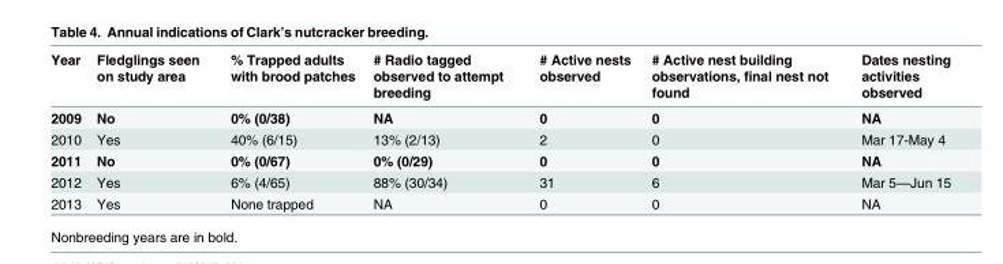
<table><thead><tr><td>Year</td><td>Fledglings seen on study area</td><td>% Trapped adults with brood patches</td><td># Radio tagged observed to attempt breeding</td><td># Active nests observed</td><td># Active nest building observations, final nest not found</td><td>Dates nesting activities observed</td></tr></thead><tbody><tr><td>2009</td><td>No</td><td>0% (0/38)</td><td>NA</td><td>0</td><td>0</td><td>NA</td></tr><tr><td>2010</td><td>Yes</td><td>40% (6/15)</td><td>13% (2/13)</td><td>2</td><td>0</td><td>Mar 17-May 4</td></tr><tr><td>2011</td><td>No</td><td>0% (0/67)</td><td>0% (0/29)</td><td>0</td><td>0</td><td>NA</td></tr><tr><td>2012</td><td>Yes</td><td>6% (4/65)</td><td>88% (30/34)</td><td>31</td><td>6</td><td>Mar 5—Jun 15</td></tr><tr><td>2013</td><td>Yes</td><td>None trapped</td><td>NA</td><td>0</td><td>0</td><td>NA</td></tr></tbody></table>